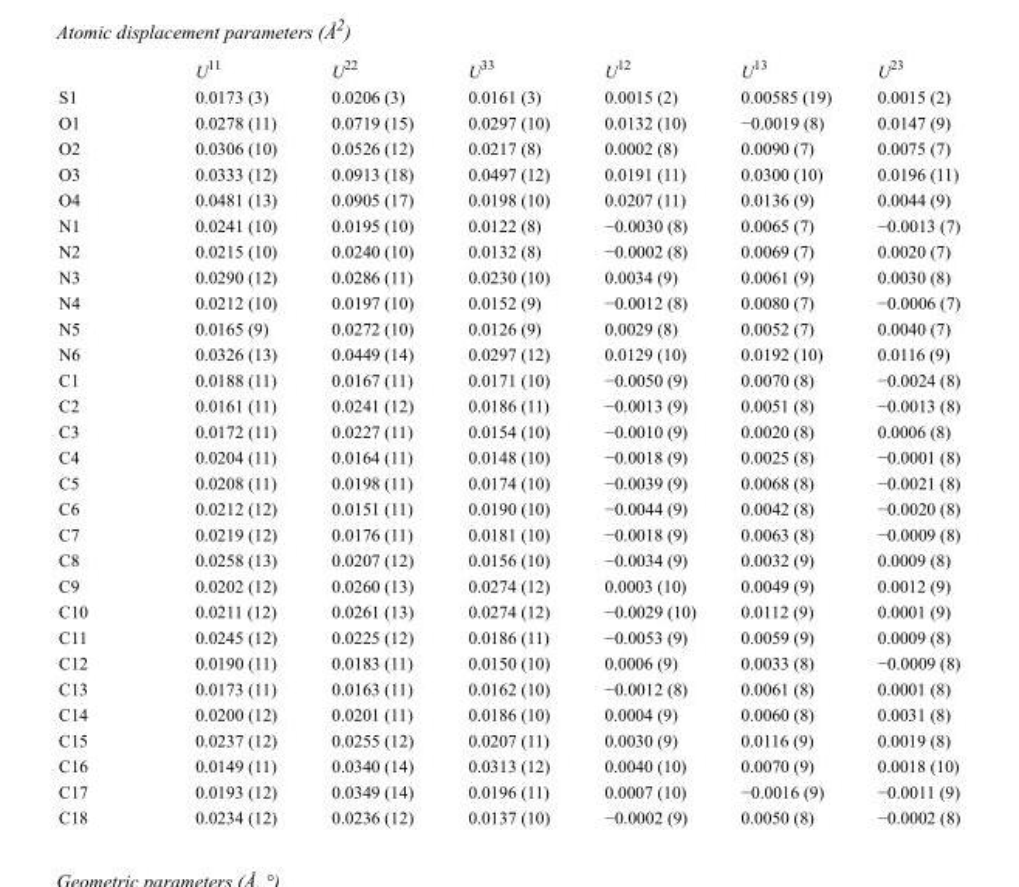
<table><thead><tr><td></td><td>U<sup>11</sup></td><td>U<sup>22</sup></td><td>U<sup>33</sup></td><td>U<sup>12</sup></td><td>U<sup>13</sup></td><td>U<sup>23</sup></td></tr></thead><tbody><tr><td>S1</td><td>0.0173 (3)</td><td>0.0206 (3)</td><td>0.0161 (3)</td><td>0.0015 (2)</td><td>0.00585 (19)</td><td>0.0015 (2)</td></tr><tr><td>O1</td><td>0.0278 (11)</td><td>0.0719 (15)</td><td>0.0297 (10)</td><td>0.0132 (10)</td><td>−0.0019 (8)</td><td>0.0147 (9)</td></tr><tr><td>O2</td><td>0.0306 (10)</td><td>0.0526 (12)</td><td>0.0217 (8)</td><td>0.0002 (8)</td><td>0.0090 (7)</td><td>0.0075 (7)</td></tr><tr><td>O3</td><td>0.0333 (12)</td><td>0.0913 (18)</td><td>0.0497 (12)</td><td>0.0191 (11)</td><td>0.0300 (10)</td><td>0.0196 (11)</td></tr><tr><td>O4</td><td>0.0481 (13)</td><td>0.0905 (17)</td><td>0.0198 (10)</td><td>0.0207 (11)</td><td>0.0136 (9)</td><td>0.0044 (9)</td></tr><tr><td>N1</td><td>0.0241 (10)</td><td>0.0195 (10)</td><td>0.0122 (8)</td><td>−0.0030 (8)</td><td>0.0065 (7)</td><td>−0.0013 (7)</td></tr><tr><td>N2</td><td>0.0215 (10)</td><td>0.0240 (10)</td><td>0.0132 (8)</td><td>−0.0002 (8)</td><td>0.0069 (7)</td><td>0.0020 (7)</td></tr><tr><td>N3</td><td>0.0290 (12)</td><td>0.0286 (11)</td><td>0.0230 (10)</td><td>0.0034 (9)</td><td>0.0061 (9)</td><td>0.0030 (8)</td></tr><tr><td>N4</td><td>0.0212 (10)</td><td>0.0197 (10)</td><td>0.0152 (9)</td><td>−0.0012 (8)</td><td>0.0080 (7)</td><td>−0.0006 (7)</td></tr><tr><td>N5</td><td>0.0165 (9)</td><td>0.0272 (10)</td><td>0.0126 (9)</td><td>0.0029 (8)</td><td>0.0052 (7)</td><td>0.0040 (7)</td></tr><tr><td>N6</td><td>0.0326 (13)</td><td>0.0449 (14)</td><td>0.0297 (12)</td><td>0.0129 (10)</td><td>0.0192 (10)</td><td>0.0116 (9)</td></tr><tr><td>C1</td><td>0.0188 (11)</td><td>0.0167 (11)</td><td>0.0171 (10)</td><td>−0.0050 (9)</td><td>0.0070 (8)</td><td>−0.0024 (8)</td></tr><tr><td>C2</td><td>0.0161 (11)</td><td>0.0241 (12)</td><td>0.0186 (11)</td><td>−0.0013 (9)</td><td>0.0051 (8)</td><td>−0.0013 (8)</td></tr><tr><td>C3</td><td>0.0172 (11)</td><td>0.0227 (11)</td><td>0.0154 (10)</td><td>−0.0010 (9)</td><td>0.0020 (8)</td><td>0.0006 (8)</td></tr><tr><td>C4</td><td>0.0204 (11)</td><td>0.0164 (11)</td><td>0.0148 (10)</td><td>−0.0018 (9)</td><td>0.0025 (8)</td><td>−0.0001 (8)</td></tr><tr><td>C5</td><td>0.0208 (11)</td><td>0.0198 (11)</td><td>0.0174 (10)</td><td>−0.0039 (9)</td><td>0.0068 (8)</td><td>−0.0021 (8)</td></tr><tr><td>C6</td><td>0.0212 (12)</td><td>0.0151 (11)</td><td>0.0190 (10)</td><td>−0.0044 (9)</td><td>0.0042 (8)</td><td>−0.0020 (8)</td></tr><tr><td>C7</td><td>0.0219 (12)</td><td>0.0176 (11)</td><td>0.0181 (10)</td><td>−0.0018 (9)</td><td>0.0063 (8)</td><td>−0.0009 (8)</td></tr><tr><td>C8</td><td>0.0258 (13)</td><td>0.0207 (12)</td><td>0.0156 (10)</td><td>−0.0034 (9)</td><td>0.0032 (9)</td><td>0.0009 (8)</td></tr><tr><td>C9</td><td>0.0202 (12)</td><td>0.0260 (13)</td><td>0.0274 (12)</td><td>0.0003 (10)</td><td>0.0049 (9)</td><td>0.0012 (9)</td></tr><tr><td>C10</td><td>0.0211 (12)</td><td>0.0261 (13)</td><td>0.0274 (12)</td><td>−0.0029 (10)</td><td>0.0112 (9)</td><td>0.0001 (9)</td></tr><tr><td>C11</td><td>0.0245 (12)</td><td>0.0225 (12)</td><td>0.0186 (11)</td><td>−0.0053 (9)</td><td>0.0059 (9)</td><td>0.0009 (8)</td></tr><tr><td>C12</td><td>0.0190 (11)</td><td>0.0183 (11)</td><td>0.0150 (10)</td><td>0.0006 (9)</td><td>0.0033 (8)</td><td>−0.0009 (8)</td></tr><tr><td>C13</td><td>0.0173 (11)</td><td>0.0163 (11)</td><td>0.0162 (10)</td><td>−0.0012 (8)</td><td>0.0061 (8)</td><td>0.0001 (8)</td></tr><tr><td>C14</td><td>0.0200 (12)</td><td>0.0201 (11)</td><td>0.0186 (10)</td><td>0.0004 (9)</td><td>0.0060 (8)</td><td>0.0031 (8)</td></tr><tr><td>C15</td><td>0.0237 (12)</td><td>0.0255 (12)</td><td>0.0207 (11)</td><td>0.0030 (9)</td><td>0.0116 (9)</td><td>0.0019 (8)</td></tr><tr><td>C16</td><td>0.0149 (11)</td><td>0.0340 (14)</td><td>0.0313 (12)</td><td>0.0040 (10)</td><td>0.0070 (9)</td><td>0.0018 (10)</td></tr><tr><td>C17</td><td>0.0193 (12)</td><td>0.0349 (14)</td><td>0.0196 (11)</td><td>0.0007 (10)</td><td>−0.0016 (9)</td><td>−0.0011 (9)</td></tr><tr><td>C18</td><td>0.0234 (12)</td><td>0.0236 (12)</td><td>0.0137 (10)</td><td>−0.0002 (9)</td><td>0.0050 (8)</td><td>−0.0002 (8)</td></tr></tbody></table>